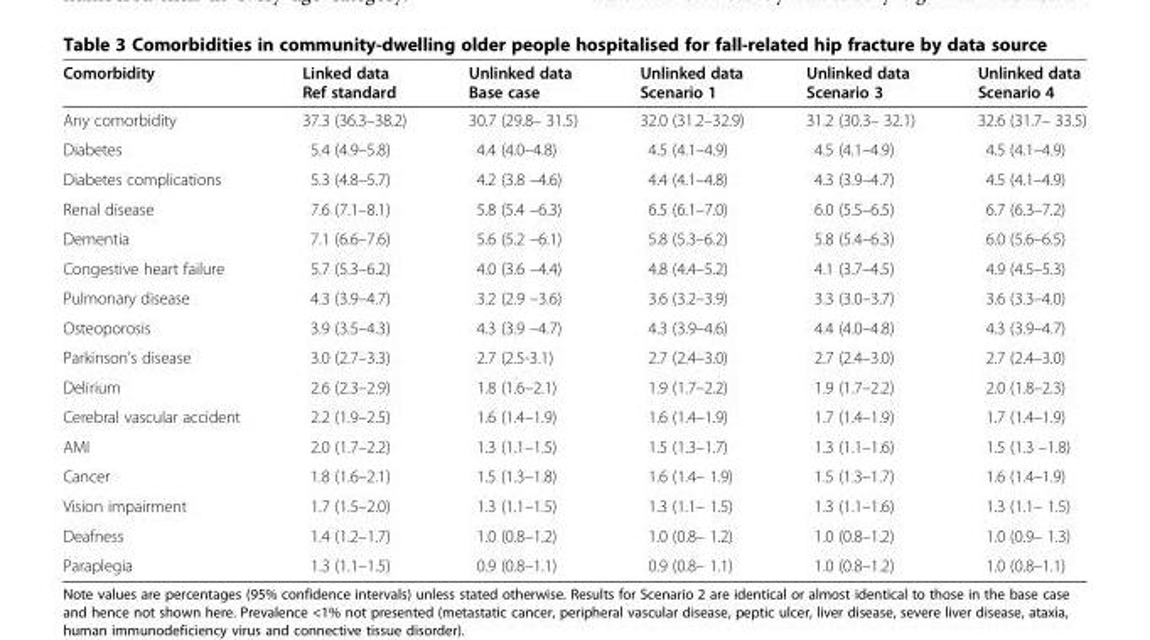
<table><thead><tr><td>Comorbidity</td><td>Linked data Ref standard</td><td>Unlinked data Base case</td><td>Unlinked data Scenario 1</td><td>Unlinked data Scenario 3</td><td>Unlinked data Scenario 4</td></tr></thead><tbody><tr><td>Any comorbidity</td><td>37.3 (36.3–38.2)</td><td>30.7 (29.8– 31.5)</td><td>32.0 (31.2–32.9)</td><td>31.2 (30.3– 32.1)</td><td>32.6 (31.7– 33.5)</td></tr><tr><td>Diabetes</td><td>5.4 (4.9–5.8)</td><td>4.4 (4.0–4.8)</td><td>4.5 (4.1–4.9)</td><td>4.5 (4.1–4.9)</td><td>4.5 (4.1–4.9)</td></tr><tr><td>Diabetes complications</td><td>5.3 (4.8–5.7)</td><td>4.2 (3.8 –4.6)</td><td>4.4 (4.1–4.8)</td><td>4.3 (3.9–4.7)</td><td>4.5 (4.1–4.9)</td></tr><tr><td>Renal disease</td><td>7.6 (7.1–8.1)</td><td>5.8 (5.4 –6.3)</td><td>6.5 (6.1–7.0)</td><td>6.0 (5.5–6.5)</td><td>6.7 (6.3–7.2)</td></tr><tr><td>Dementia</td><td>7.1 (6.6–7.6)</td><td>5.6 (5.2 –6.1)</td><td>5.8 (5.3–6.2)</td><td>5.8 (5.4–6.3)</td><td>6.0 (5.6–6.5)</td></tr><tr><td>Congestive heart failure</td><td>5.7 (5.3–6.2)</td><td>4.0 (3.6 –4.4)</td><td>4.8 (4.4–5.2)</td><td>4.1 (3.7–4.5)</td><td>4.9 (4.5–5.3)</td></tr><tr><td>Pulmonary disease</td><td>4.3 (3.9–4.7)</td><td>3.2 (2.9 –3.6)</td><td>3.6 (3.2–3.9)</td><td>3.3 (3.0–3.7)</td><td>3.6 (3.3–4.0)</td></tr><tr><td>Osteoporosis</td><td>3.9 (3.5–4.3)</td><td>4.3 (3.9 –4.7)</td><td>4.3 (3.9–4.6)</td><td>4.4 (4.0–4.8)</td><td>4.3 (3.9–4.7)</td></tr><tr><td>Parkinson’s disease</td><td>3.0 (2.7–3.3)</td><td>2.7 (2.5-3.1)</td><td>2.7 (2.4–3.0)</td><td>2.7 (2.4–3.0)</td><td>2.7 (2.4–3.0)</td></tr><tr><td>Delirium</td><td>2.6 (2.3–2.9)</td><td>1.8 (1.6–2.1)</td><td>1.9 (1.7–2.2)</td><td>1.9 (1.7–2.2)</td><td>2.0 (1.8–2.3)</td></tr><tr><td>Cerebral vascular accident</td><td>2.2 (1.9–2.5)</td><td>1.6 (1.4–1.9)</td><td>1.6 (1.4–1.9)</td><td>1.7 (1.4–1.9)</td><td>1.7 (1.4–1.9)</td></tr><tr><td>AMI</td><td>2.0 (1.7–2.2)</td><td>1.3 (1.1–1.5)</td><td>1.5 (1.3–1.7)</td><td>1.3 (1.1–1.6)</td><td>1.5 (1.3 –1.8)</td></tr><tr><td>Cancer</td><td>1.8 (1.6–2.1)</td><td>1.5 (1.3–1.8)</td><td>1.6 (1.4– 1.9)</td><td>1.5 (1.3–1.7)</td><td>1.6 (1.4–1.9)</td></tr><tr><td>Vision impairment</td><td>1.7 (1.5–2.0)</td><td>1.3 (1.1–1.5)</td><td>1.3 (1.1– 1.5)</td><td>1.3 (1.1–1.6)</td><td>1.3 (1.1– 1.5)</td></tr><tr><td>Deafness</td><td>1.4 (1.2–1.7)</td><td>1.0 (0.8–1.2)</td><td>1.0 (0.8– 1.2)</td><td>1.0 (0.8–1.2)</td><td>1.0 (0.9– 1.3)</td></tr><tr><td>Paraplegia</td><td>1.3 (1.1–1.5)</td><td>0.9 (0.8–1.1)</td><td>0.9 (0.8– 1.1)</td><td>1.0 (0.8–1.2)</td><td>1.0 (0.8–1.1)</td></tr></tbody></table>